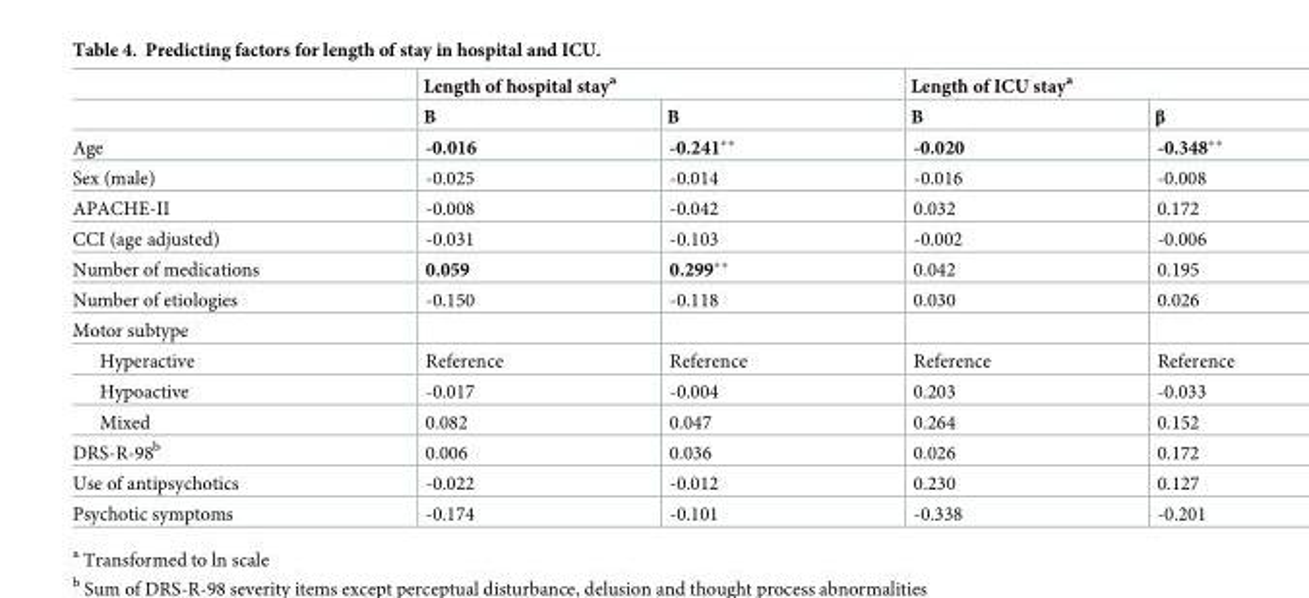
<table><thead><tr><td rowspan="2"></td><td colspan="2">Length of hospital stay<sup>a</sup></td><td colspan="2">Length of ICU stay<sup>a</sup></td></tr><tr><td>B</td><td>Β</td><td>B</td><td>β</td></tr></thead><tbody><tr><td>Age</td><td>-0.016</td><td>-0.241**</td><td>-0.020</td><td>-0.348**</td></tr><tr><td>Sex (male)</td><td>-0.025</td><td>-0.014</td><td>-0.016</td><td>-0.008</td></tr><tr><td>APACHE-II</td><td>-0.008</td><td>-0.042</td><td>0.032</td><td>0.172</td></tr><tr><td>CCI (age adjusted)</td><td>-0.031</td><td>-0.103</td><td>-0.002</td><td>-0.006</td></tr><tr><td>Number of medications</td><td>0.059</td><td>0.299**</td><td>0.042</td><td>0.195</td></tr><tr><td>Number of etiologies</td><td>-0.150</td><td>-0.118</td><td>0.030</td><td>0.026</td></tr><tr><td colspan="5">Motor subtype</td></tr><tr><td>Hyperactive</td><td>Reference</td><td>Reference</td><td>Reference</td><td>Reference</td></tr><tr><td>Hypoactive</td><td>-0.017</td><td>-0.004</td><td>0.203</td><td>-0.033</td></tr><tr><td>Mixed</td><td>0.082</td><td>0.047</td><td>0.264</td><td>0.152</td></tr><tr><td>DRS-R-98<sup>b</sup></td><td>0.006</td><td>0.036</td><td>0.026</td><td>0.172</td></tr><tr><td>Use of antipsychotics</td><td>-0.022</td><td>-0.012</td><td>0.230</td><td>0.127</td></tr><tr><td>Psychotic symptoms</td><td>-0.174</td><td>-0.101</td><td>-0.338</td><td>-0.201</td></tr></tbody></table>